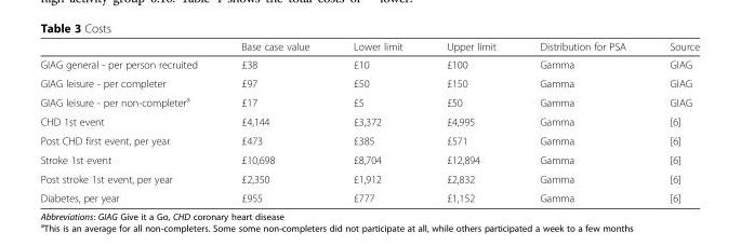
<table><thead><tr><td></td><td>Base case value</td><td>Lower limit</td><td>Upper limit</td><td>Distribution for PSA</td><td>Source</td></tr></thead><tbody><tr><td>GIAG general - per person recruited</td><td>£38</td><td>£10</td><td>£100</td><td>Gamma</td><td>GIAG</td></tr><tr><td>GIAG leisure - per completer</td><td>£97</td><td>£50</td><td>£150</td><td>Gamma</td><td>GIAG</td></tr><tr><td>GIAG leisure - per non-completer<sup>a</sup></td><td>£17</td><td>£5</td><td>£50</td><td>Gamma</td><td>GIAG</td></tr><tr><td>CHD 1st event</td><td>£4,144</td><td>£3,372</td><td>£4,995</td><td>Gamma</td><td>[6]</td></tr><tr><td>Post CHD first event, per year</td><td>£473</td><td>£385</td><td>£571</td><td>Gamma</td><td>[6]</td></tr><tr><td>Stroke 1st event</td><td>£10,698</td><td>£8,704</td><td>£12,894</td><td>Gamma</td><td>[6]</td></tr><tr><td>Post stroke 1st event, per year</td><td>£2,350</td><td>£1,912</td><td>£2,832</td><td>Gamma</td><td>[6]</td></tr><tr><td>Diabetes, per year</td><td>£955</td><td>£777</td><td>£1,152</td><td>Gamma</td><td>[6]</td></tr></tbody></table>